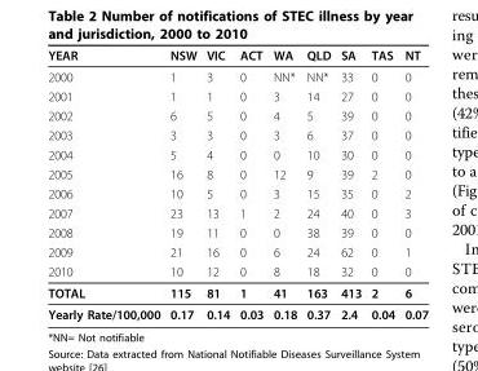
<table><thead><tr><td>YEAR</td><td>NSW</td><td>VIC</td><td>ACT</td><td>WA</td><td>QLD</td><td>SA</td><td>TAS</td><td>NT</td></tr></thead><tbody><tr><td>2000</td><td>1</td><td>3</td><td>0</td><td>NN*</td><td>NN*</td><td>33</td><td>0</td><td>0</td></tr><tr><td>2001</td><td>1</td><td>1</td><td>0</td><td>3</td><td>14</td><td>27</td><td>0</td><td>0</td></tr><tr><td>2002</td><td>6</td><td>5</td><td>0</td><td>4</td><td>5</td><td>39</td><td>0</td><td>0</td></tr><tr><td>2003</td><td>3</td><td>3</td><td>0</td><td>3</td><td>6</td><td>37</td><td>0</td><td>0</td></tr><tr><td>2004</td><td>5</td><td>4</td><td>0</td><td>0</td><td>10</td><td>30</td><td>0</td><td>0</td></tr><tr><td>2005</td><td>16</td><td>8</td><td>0</td><td>12</td><td>9</td><td>39</td><td>2</td><td>0</td></tr><tr><td>2006</td><td>10</td><td>5</td><td>0</td><td>3</td><td>15</td><td>35</td><td>0</td><td>2</td></tr><tr><td>2007</td><td>23</td><td>13</td><td>1</td><td>2</td><td>24</td><td>40</td><td>0</td><td>3</td></tr><tr><td>2008</td><td>19</td><td>11</td><td>0</td><td>0</td><td>38</td><td>39</td><td>0</td><td>0</td></tr><tr><td>2009</td><td>21</td><td>16</td><td>0</td><td>6</td><td>24</td><td>62</td><td>0</td><td>1</td></tr><tr><td>2010</td><td>10</td><td>12</td><td>0</td><td>8</td><td>18</td><td>32</td><td>0</td><td>0</td></tr><tr><td>TOTAL</td><td>115</td><td>81</td><td>1</td><td>41</td><td>163</td><td>413</td><td>2</td><td>6</td></tr><tr><td>Yearly Rate/100,000</td><td>0.17</td><td>0.14</td><td>0.03</td><td>0.18</td><td>0.37</td><td>2.4</td><td>0.04</td><td>0.07</td></tr></tbody></table>